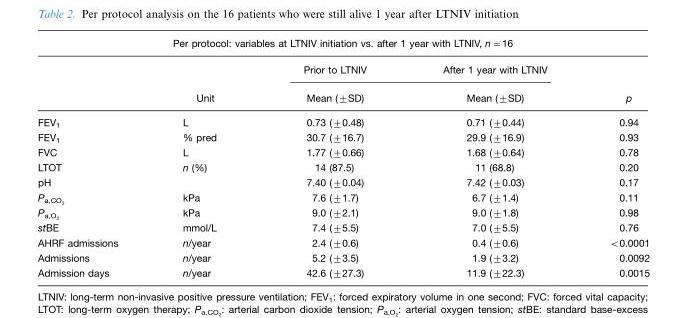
<table><thead><tr><td colspan="5">Per protocol: variables at LTNIV initiation vs. after 1 year with LTNIV, n=16</td></tr><tr><td rowspan="2"></td><td rowspan="2">Unit</td><td rowspan="2">Prior to LTNIV Mean (±SD)</td><td rowspan="2">After 1 year with LTNIV Mean (±SD)</td><td rowspan="2">p</td></tr><tr></tr></thead><tbody><tr><td>FEV<sub>1</sub></td><td>L</td><td>0.73 (±0.48)</td><td>0.71 (±0.44)</td><td>0.94</td></tr><tr><td>FEV<sub>1</sub></td><td>% pred</td><td>30.7 (±16.7)</td><td>29.9 (±16.9)</td><td>0.93</td></tr><tr><td>FVC</td><td>L</td><td>1.77 (±0.66)</td><td>1.68 (±0.64)</td><td>0.78</td></tr><tr><td>LTOT</td><td>n (%)</td><td>14 (87.5)</td><td>11 (68.8)</td><td>0.20</td></tr><tr><td>pH</td><td></td><td>7.40 (±0.04)</td><td>7.42 (±0.03)</td><td>0.17</td></tr><tr><td>Pa,CO2</td><td>kPa</td><td>7.6 (±1.7)</td><td>6.7 (±1.4)</td><td>0.11</td></tr><tr><td>Pa,O2</td><td>kPa</td><td>9.0 (±2.1)</td><td>9.0 (±1.8)</td><td>0.98</td></tr><tr><td>stBE</td><td>mmol/L</td><td>7.4 (±5.5)</td><td>7.0 (±5.5)</td><td>0.76</td></tr><tr><td>AHRF admissions</td><td>n/year</td><td>2.4 (±0.6)</td><td>0.4 (±0.6)</td><td>&lt;0.0001</td></tr><tr><td>Admissions</td><td>n/year</td><td>5.2 (±3.5)</td><td>1.9 (±3.2)</td><td>0.0092</td></tr><tr><td>Admission days</td><td>n/year</td><td>42.6 (±27.3)</td><td>11.9 (±22.3)</td><td>0.0015</td></tr></tbody></table>